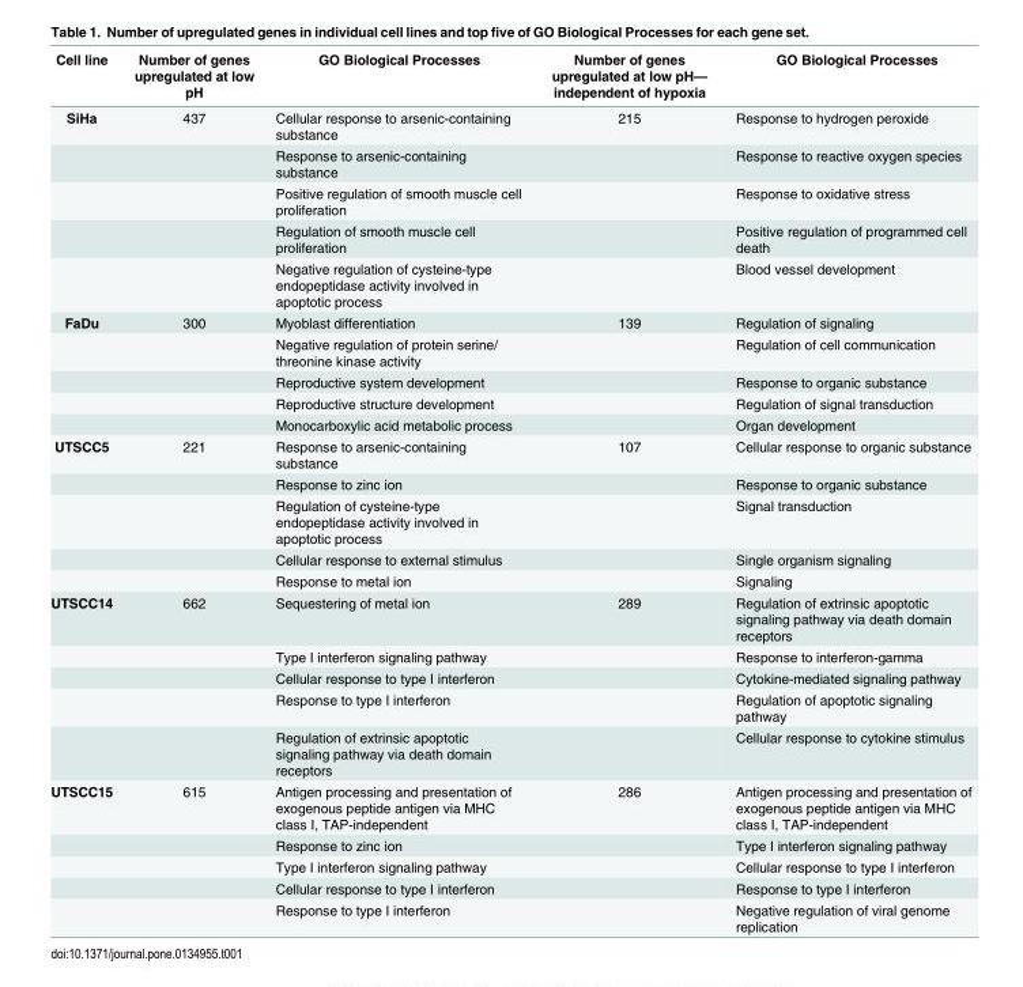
<table><thead><tr><td>Cell line</td><td>Number of genes upregulated at low pH</td><td>GO Biological Processes</td><td>Number of genes upregulated at low pH— independent of hypoxia</td><td>GO Biological Processes</td></tr></thead><tbody><tr><td rowspan="5">SiHa</td><td>437</td><td>Cellular response to arsenic-containing substance</td><td>215</td><td>Response to hydrogen peroxide</td></tr><tr><td></td><td>Response to arsenic-containing substance</td><td></td><td>Response to reactive oxygen species</td></tr><tr><td></td><td>Positive regulation of smooth muscle cell proliferation</td><td></td><td>Response to oxidative stress</td></tr><tr><td></td><td>Regulation of smooth muscle cell proliferation</td><td></td><td>Positive regulation of programmed cell death</td></tr><tr><td></td><td>Negative regulation of cysteine-type endopeptidase activity involved in apoptotic process</td><td></td><td>Blood vessel development</td></tr><tr><td rowspan="5">FaDu</td><td>300</td><td>Myoblast differentiation</td><td>139</td><td>Regulation of signaling</td></tr><tr><td></td><td>Negative regulation of protein serine/ threonine kinase activity</td><td></td><td>Regulation of cell communication</td></tr><tr><td></td><td>Reproductive system development</td><td></td><td>Response to organic substance</td></tr><tr><td></td><td>Reproductive structure development</td><td></td><td>Regulation of signal transduction</td></tr><tr><td></td><td>Monocarboxylic acid metabolic process</td><td></td><td>Organ development</td></tr><tr><td rowspan="5">UTSCC5</td><td>221</td><td>Response to arsenic-containing substance</td><td>107</td><td>Cellular response to organic substance</td></tr><tr><td></td><td>Response to zinc ion</td><td></td><td>Response to organic substance</td></tr><tr><td></td><td>Regulation of cysteine-type endopeptidase activity involved in apoptotic process</td><td></td><td>Signal transduction</td></tr><tr><td></td><td>Cellular response to external stimulus</td><td></td><td>Single organism signaling</td></tr><tr><td></td><td>Response to metal ion</td><td></td><td>Signaling</td></tr><tr><td rowspan="5">UTSCC14</td><td>662</td><td>Sequestering of metal ion</td><td>289</td><td>Regulation of extrinsic apoptotic signaling pathway via death domain receptors</td></tr><tr><td></td><td>Type I interferon signaling pathway</td><td></td><td>Response to interferon-gamma</td></tr><tr><td></td><td>Cellular response to type I interferon</td><td></td><td>Cytokine-mediated signaling pathway</td></tr><tr><td></td><td>Response to type I interferon</td><td></td><td>Regulation of apoptotic signaling pathway</td></tr><tr><td></td><td>Regulation of extrinsic apoptotic signaling pathway via death domain receptors</td><td></td><td>Cellular response to cytokine stimulus</td></tr><tr><td rowspan="5">UTSCC15</td><td>615</td><td>Antigen processing and presentation of exogenous peptide antigen via MHC class I, TAP-independent</td><td>286</td><td>Antigen processing and presentation of exogenous peptide antigen via MHC class I, TAP-independent</td></tr><tr><td></td><td>Response to zinc ion</td><td></td><td>Type I interferon signaling pathway</td></tr><tr><td></td><td>Type I interferon signaling pathway</td><td></td><td>Cellular response to type I interferon</td></tr><tr><td></td><td>Cellular response to type I interferon</td><td></td><td>Response to type I interferon</td></tr><tr><td></td><td>Response to type I interferon</td><td></td><td>Negative regulation of viral genome replication</td></tr></tbody></table>